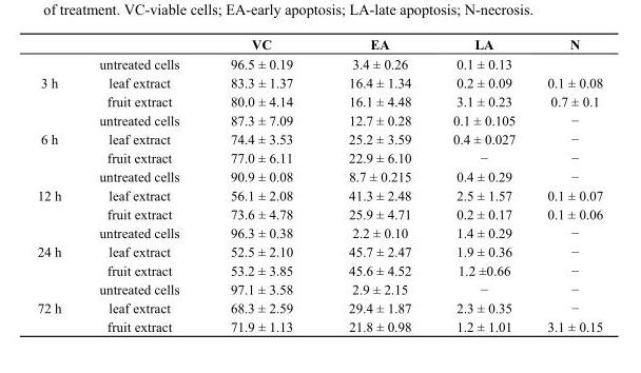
<table><thead><tr><td></td><td></td><td>VC</td><td>EA</td><td>LA</td><td>N</td></tr></thead><tbody><tr><td rowspan="3">3 h</td><td>untreated cells</td><td>96.5 ± 0.19</td><td>3.4 ± 0.26</td><td>0.1 ± 0.13</td><td></td></tr><tr><td>leaf extract</td><td>83.3 ± 1.37</td><td>16.4 ± 1.34</td><td>0.2 ± 0.09</td><td>0.1 ± 0.08</td></tr><tr><td>fruit extract</td><td>80.0 ± 4.14</td><td>16.1 ± 4.48</td><td>3.1 ± 0.23</td><td>0.7 ± 0.1</td></tr><tr><td rowspan="3">6 h</td><td>untreated cells</td><td>87.3 ± 7.09</td><td>12.7 ± 0.28</td><td>0.1 ± 0.105</td><td>−</td></tr><tr><td>leaf extract</td><td>74.4 ± 3.53</td><td>25.2 ± 3.59</td><td>0.4 ± 0.027</td><td>−</td></tr><tr><td>fruit extract</td><td>77.0 ± 6.11</td><td>22.9 ± 6.10</td><td>−</td><td>−</td></tr><tr><td rowspan="3">12 h</td><td>untreated cells</td><td>90.9 ± 0.08</td><td>8.7 ± 0.215</td><td>0.4 ± 0.29</td><td>−</td></tr><tr><td>leaf extract</td><td>56.1 ± 2.08</td><td>41.3 ± 2.48</td><td>2.5 ± 1.57</td><td>0.1 ± 0.07</td></tr><tr><td>fruit extract</td><td>73.6 ± 4.78</td><td>25.9 ± 4.71</td><td>0.2 ± 0.17</td><td>0.1 ± 0.06</td></tr><tr><td rowspan="3">24 h</td><td>untreated cells</td><td>96.3 ± 0.38</td><td>2.2 ± 0.10</td><td>1.4 ± 0.29</td><td>−</td></tr><tr><td>leaf extract</td><td>52.5 ± 2.10</td><td>45.7 ± 2.47</td><td>1.9 ± 0.36</td><td>−</td></tr><tr><td>fruit extract</td><td>53.2 ± 3.85</td><td>45.6 ± 4.52</td><td>1.2 ±0.66</td><td>−</td></tr><tr><td rowspan="3">72 h</td><td>untreated cells</td><td>97.1 ± 3.58</td><td>2.9 ± 2.15</td><td>−</td><td>−</td></tr><tr><td>leaf extract</td><td>68.3 ± 2.59</td><td>29.4 ± 1.87</td><td>2.3 ± 0.35</td><td>−</td></tr><tr><td>fruit extract</td><td>71.9 ± 1.13</td><td>21.8 ± 0.98</td><td>1.2 ± 1.01</td><td>3.1 ± 0.15</td></tr></tbody></table>